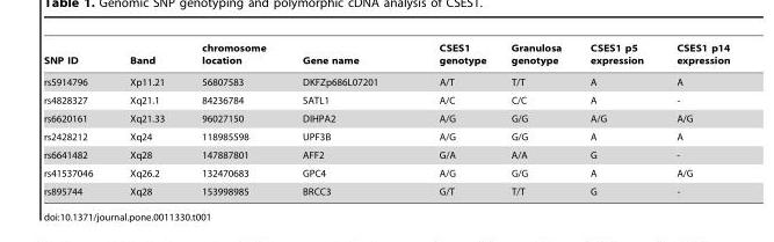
<table><thead><tr><td>SNP ID</td><td>Band</td><td>chromosome location</td><td>Gene name</td><td>CSES1 genotype</td><td>Granulosa genotype</td><td>CSES1 p5 expression</td><td>CSES1 p14 expression</td></tr></thead><tbody><tr><td>rs5914796</td><td>Xp11.21</td><td>56807583</td><td>DKFZp686L07201</td><td>A/T</td><td>T/T</td><td>A</td><td>A</td></tr><tr><td>rs4828327</td><td>Xq21.1</td><td>84236784</td><td>SATL1</td><td>A/C</td><td>C/C</td><td>A</td><td>-</td></tr><tr><td>rs6620161</td><td>Xq21.33</td><td>96027150</td><td>DIHPA2</td><td>A/G</td><td>G/G</td><td>A/G</td><td>A/G</td></tr><tr><td>rs2428212</td><td>Xq24</td><td>118985598</td><td>UPF3B</td><td>A/G</td><td>G/G</td><td>A</td><td>A</td></tr><tr><td>rs6641482</td><td>Xq28</td><td>147887801</td><td>AFF2</td><td>G/A</td><td>A/A</td><td>G</td><td>-</td></tr><tr><td>rs41537046</td><td>Xq26.2</td><td>132470683</td><td>GPC4</td><td>A/G</td><td>G/G</td><td>A</td><td>A/G</td></tr><tr><td>rs895744</td><td>Xq28</td><td>153998985</td><td>BRCC3</td><td>G/T</td><td>T/T</td><td>G</td><td>-</td></tr></tbody></table>